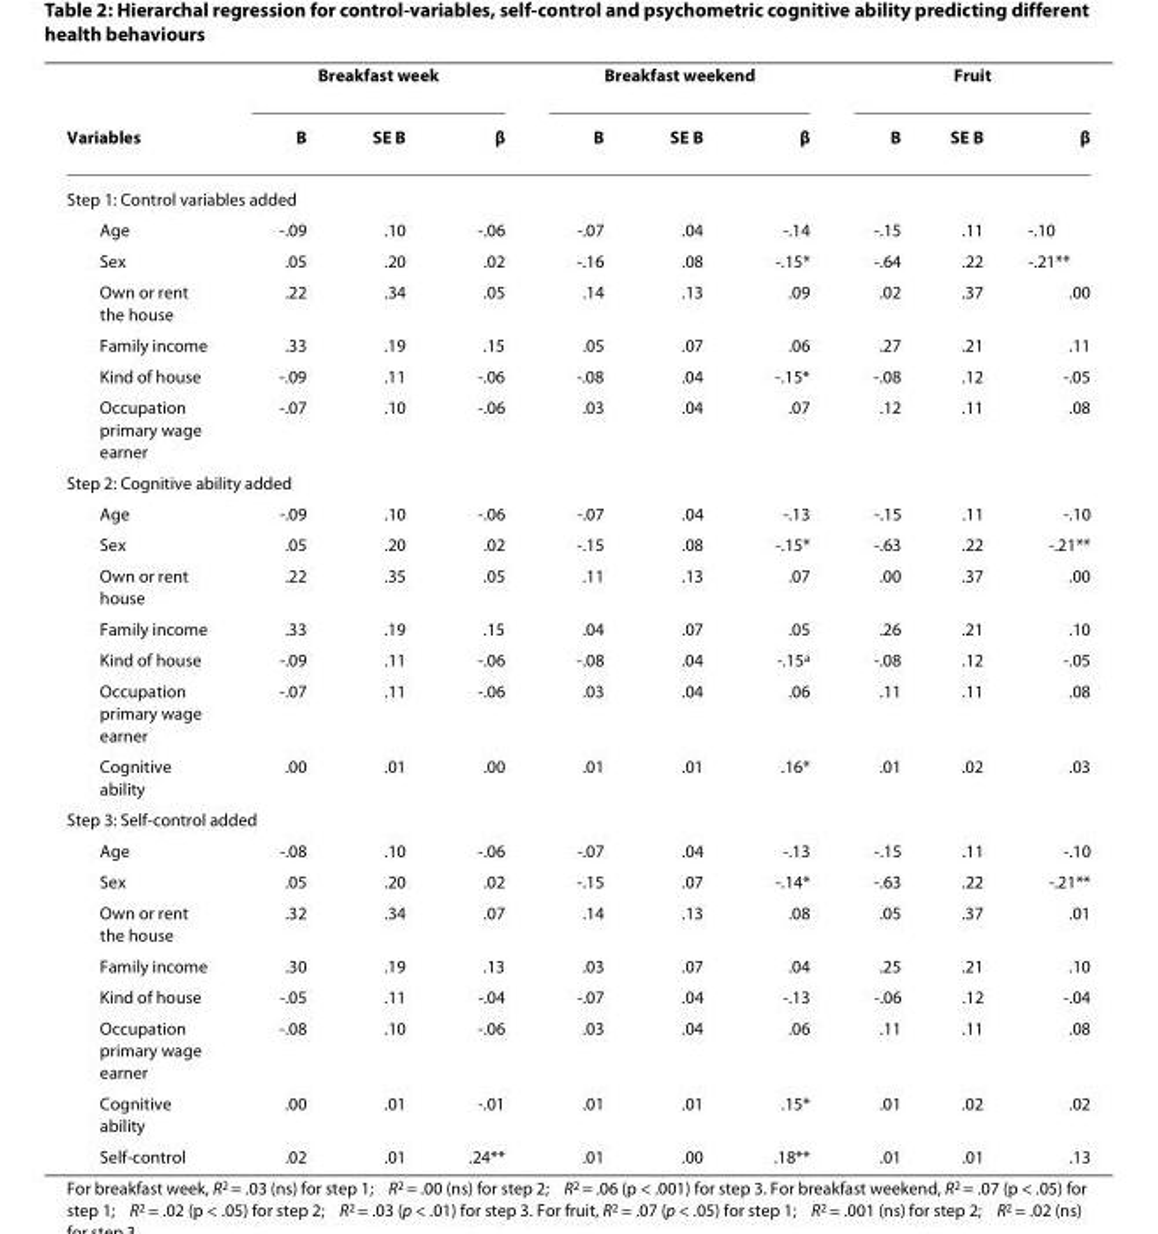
<table><thead><tr><td rowspan="2">Variables</td><td colspan="3">Breakfast week</td><td colspan="3">Breakfast weekend</td><td colspan="3">Fruit</td></tr><tr><td>B</td><td>SE B</td><td>β</td><td>B</td><td>SE B</td><td>β</td><td>B</td><td>SE B</td><td>β</td></tr></thead><tbody><tr><td colspan="10">Step 1: Control variables added</td></tr><tr><td>Age</td><td>-.09</td><td>.10</td><td>-.06</td><td>-.07</td><td>.04</td><td>-.14</td><td>-.15</td><td>.11</td><td>-.10</td></tr><tr><td>Sex</td><td>.05</td><td>.20</td><td>.02</td><td>-.16</td><td>.08</td><td>-.15*</td><td>-.64</td><td>.22</td><td>-.21**</td></tr><tr><td>Own or rent the house</td><td>.22</td><td>.34</td><td>.05</td><td>.14</td><td>.13</td><td>.09</td><td>.02</td><td>.37</td><td>.00</td></tr><tr><td>Family income</td><td>.33</td><td>.19</td><td>.15</td><td>.05</td><td>.07</td><td>.06</td><td>.27</td><td>.21</td><td>.11</td></tr><tr><td>Kind of house</td><td>-.09</td><td>.11</td><td>-.06</td><td>-.08</td><td>.04</td><td>-.15*</td><td>-.08</td><td>.12</td><td>-.05</td></tr><tr><td>Occupation primary wage earner</td><td>-.07</td><td>.10</td><td>-.06</td><td>.03</td><td>.04</td><td>.07</td><td>.12</td><td>.11</td><td>.08</td></tr><tr><td colspan="10">Step 2: Cognitive ability added</td></tr><tr><td>Age</td><td>-.09</td><td>.10</td><td>-.06</td><td>-.07</td><td>.04</td><td>-.13</td><td>-.15</td><td>.11</td><td>-.10</td></tr><tr><td>Sex</td><td>.05</td><td>.20</td><td>.02</td><td>-.15</td><td>.08</td><td>-.15*</td><td>-.63</td><td>.22</td><td>-.21**</td></tr><tr><td>Own or rent house</td><td>.22</td><td>.35</td><td>.05</td><td>.11</td><td>.13</td><td>.07</td><td>.00</td><td>.37</td><td>.00</td></tr><tr><td>Family income</td><td>.33</td><td>.19</td><td>.15</td><td>.04</td><td>.07</td><td>.05</td><td>.26</td><td>.21</td><td>.10</td></tr><tr><td>Kind of house</td><td>-.09</td><td>.11</td><td>-.06</td><td>-.08</td><td>.04</td><td>-.15<sup>a</sup></td><td>-.08</td><td>.12</td><td>-.05</td></tr><tr><td>Occupation primary wage earner</td><td>-.07</td><td>.11</td><td>-.06</td><td>.03</td><td>.04</td><td>.06</td><td>.11</td><td>.11</td><td>.08</td></tr><tr><td>Cognitive ability</td><td>.00</td><td>.01</td><td>.00</td><td>.01</td><td>.01</td><td>.16*</td><td>.01</td><td>.02</td><td>.03</td></tr><tr><td colspan="10">Step 3: Self-control added</td></tr><tr><td>Age</td><td>-.08</td><td>.10</td><td>-.06</td><td>-.07</td><td>.04</td><td>-.13</td><td>-.15</td><td>.11</td><td>-.10</td></tr><tr><td>Sex</td><td>.05</td><td>.20</td><td>.02</td><td>-.15</td><td>.07</td><td>-.14*</td><td>-.63</td><td>.22</td><td>-.21**</td></tr><tr><td>Own or rent the house</td><td>.32</td><td>.34</td><td>.07</td><td>.14</td><td>.13</td><td>.08</td><td>.05</td><td>.37</td><td>.01</td></tr><tr><td>Family income</td><td>.30</td><td>.19</td><td>.13</td><td>.03</td><td>.07</td><td>.04</td><td>.25</td><td>.21</td><td>.10</td></tr><tr><td>Kind of house</td><td>-.05</td><td>.11</td><td>-.04</td><td>-.07</td><td>.04</td><td>-.13</td><td>-.06</td><td>.12</td><td>-.04</td></tr><tr><td>Occupation primary wage earner</td><td>-.08</td><td>.10</td><td>-.06</td><td>.03</td><td>.04</td><td>.06</td><td>.11</td><td>.11</td><td>.08</td></tr><tr><td>Cognitive ability</td><td>.00</td><td>.01</td><td>-.01</td><td>.01</td><td>.01</td><td>.15*</td><td>.01</td><td>.02</td><td>.02</td></tr><tr><td>Self-control</td><td>.02</td><td>.01</td><td>.24**</td><td>.01</td><td>.00</td><td>.18**</td><td>.01</td><td>.01</td><td>.13</td></tr></tbody></table>